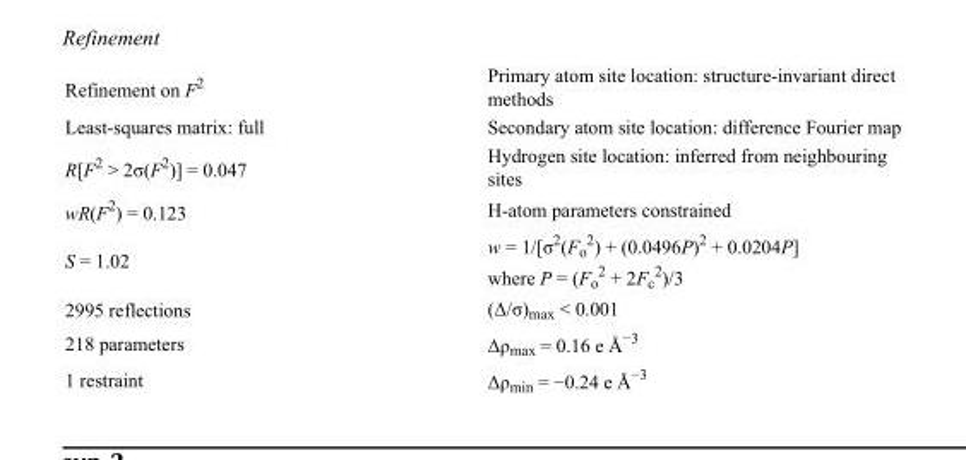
<table><tbody><tr><td>Refinement on F<sup>2</sup></td><td>Primary atom site location: structure-invariant direct methods</td></tr><tr><td>Least-squares matrix: full</td><td>Secondary atom site location: difference Fourier map</td></tr><tr><td>R[F<sup>2</sup> &gt; 2σ(F<sup>2</sup>)] = 0.047</td><td>Hydrogen site location: inferred from neighbouring sites</td></tr><tr><td>wR(F<sup>2</sup>) = 0.123</td><td>H-atom parameters constrained</td></tr><tr><td>S = 1.02</td><td>w = 1/[σ<sup>2</sup>(F<sub>o</sub> <sup>2</sup>) + (0.0496P)<sup>2</sup> + 0.0204P] where P = (F<sub>o</sub> <sup>2</sup> + 2F<sub>c</sub> <sup>2</sup>)/3</td></tr><tr><td>2995 reflections</td><td>(Δ/σ)<sub>max</sub> &lt; 0.001</td></tr><tr><td>218 parameters</td><td>Δρ<sub>max</sub> = 0.16 e Å<sup>−3</sup></td></tr><tr><td>1 restraint</td><td>Δρ<sub>min</sub> = −0.24 e Å<sup>−3</sup></td></tr></tbody></table>